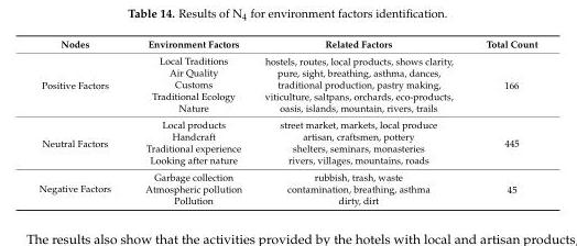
<table><thead><tr><td>Nodes</td><td>Environment Factors</td><td>Related Factors</td><td>Total Count</td></tr></thead><tbody><tr><td rowspan="5">Positive Factors</td><td>Local Traditions</td><td rowspan="5">hostels, routes, local products, shows clarity, pure, sight, breathing, asthma, dances, traditional production, pastry making, viticulture, saltpans, orchards, eco-products, oasis, islands, mountain, rivers, trails</td><td rowspan="5">166</td></tr><tr><td>Air Quality</td></tr><tr><td>Customs</td></tr><tr><td>Traditional Ecology</td></tr><tr><td>Nature</td></tr><tr><td rowspan="4">Neutral Factors</td><td>Local products</td><td>street market, markets, local produce</td><td rowspan="4">445</td></tr><tr><td>Handcraft</td><td>artisan, craftsmen, pottery</td></tr><tr><td>Traditional experience</td><td>shelters, seminars, monasteries</td></tr><tr><td>Looking after nature</td><td>rivers, villages, mountains, roads</td></tr><tr><td rowspan="3">Negative Factors</td><td>Garbage collection</td><td>rubbish, trash, waste</td><td rowspan="3">45</td></tr><tr><td>Atmospheric pollution</td><td>contamination, breathing, asthma</td></tr><tr><td>Pollution</td><td>dirty, dirt</td></tr></tbody></table>